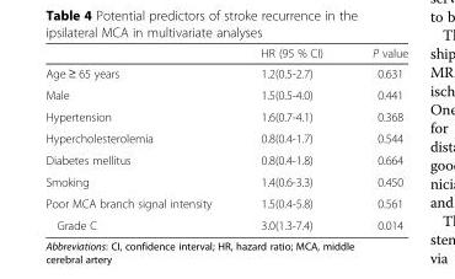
<table><thead><tr><td></td><td>HR (95 % CI)</td><td>P value</td></tr></thead><tbody><tr><td>Age ≥ 65 years</td><td>1.2(0.5-2.7)</td><td>0.631</td></tr><tr><td>Male</td><td>1.5(0.5-4.0)</td><td>0.441</td></tr><tr><td>Hypertension</td><td>1.6(0.7-4.1)</td><td>0.368</td></tr><tr><td>Hypercholesterolemia</td><td>0.8(0.4-1.7)</td><td>0.544</td></tr><tr><td>Diabetes mellitus</td><td>0.8(0.4-1.8)</td><td>0.664</td></tr><tr><td>Smoking</td><td>1.4(0.6-3.3)</td><td>0.450</td></tr><tr><td>Poor MCA branch signal intensity</td><td>1.5(0.4-5.8)</td><td>0.561</td></tr><tr><td>Grade C</td><td>3.0(1.3-7.4)</td><td>0.014</td></tr></tbody></table>